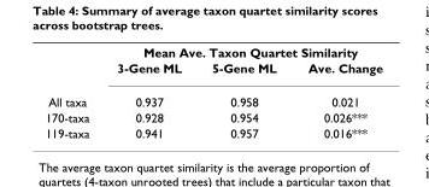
<table><thead><tr><td rowspan="2"></td><td colspan="3">Mean Ave. Taxon Quartet Similarity</td></tr><tr><td>3-Gene ML</td><td>5-Gene ML</td><td>Ave. Change</td></tr></thead><tbody><tr><td>All taxa</td><td>0.937</td><td>0.958</td><td>0.021</td></tr><tr><td>170-taxa</td><td>0.928</td><td>0.954</td><td>0.026***</td></tr><tr><td>119-taxa</td><td>0.941</td><td>0.957</td><td>0.016***</td></tr></tbody></table>